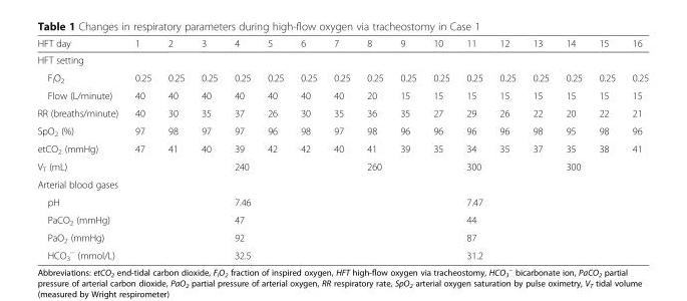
<table><thead><tr><td>HFT day</td><td>1</td><td>2</td><td>3</td><td>4</td><td>5</td><td>6</td><td>7</td><td>8</td><td>9</td><td>10</td><td>11</td><td>12</td><td>13</td><td>14</td><td>15</td><td>16</td></tr></thead><tbody><tr><td colspan="17">HFT setting</td></tr><tr><td>F<sub>I</sub>O<sub>2</sub></td><td>0.25</td><td>0.25</td><td>0.25</td><td>0.25</td><td>0.25</td><td>0.25</td><td>0.25</td><td>0.25</td><td>0.25</td><td>0.25</td><td>0.25</td><td>0.25</td><td>0.25</td><td>0.25</td><td>0.25</td><td>0.25</td></tr><tr><td>Flow (L/minute)</td><td>40</td><td>40</td><td>40</td><td>40</td><td>40</td><td>40</td><td>40</td><td>20</td><td>15</td><td>15</td><td>15</td><td>15</td><td>15</td><td>15</td><td>15</td><td>15</td></tr><tr><td>RR (breaths/minute)</td><td>40</td><td>30</td><td>35</td><td>37</td><td>26</td><td>30</td><td>35</td><td>36</td><td>35</td><td>27</td><td>29</td><td>26</td><td>22</td><td>20</td><td>22</td><td>21</td></tr><tr><td>SpO<sub>2</sub> (%)</td><td>97</td><td>98</td><td>97</td><td>97</td><td>96</td><td>98</td><td>97</td><td>98</td><td>96</td><td>96</td><td>96</td><td>96</td><td>98</td><td>95</td><td>98</td><td>96</td></tr><tr><td>etCO<sub>2</sub> (mmHg)</td><td>47</td><td>41</td><td>40</td><td>39</td><td>42</td><td>42</td><td>40</td><td>41</td><td>39</td><td>35</td><td>34</td><td>35</td><td>37</td><td>35</td><td>38</td><td>41</td></tr><tr><td>V<sub>T</sub> (mL)</td><td></td><td></td><td></td><td>240</td><td></td><td></td><td></td><td>260</td><td></td><td></td><td>300</td><td></td><td></td><td>300</td><td></td><td></td></tr><tr><td colspan="17">Arterial blood gases</td></tr><tr><td>pH</td><td></td><td></td><td></td><td>7.46</td><td></td><td></td><td></td><td></td><td></td><td></td><td>7.47</td><td></td><td></td><td></td><td></td><td></td></tr><tr><td>PaCO<sub>2</sub> (mmHg)</td><td></td><td></td><td></td><td>47</td><td></td><td></td><td></td><td></td><td></td><td></td><td>44</td><td></td><td></td><td></td><td></td><td></td></tr><tr><td>PaO<sub>2</sub> (mmHg)</td><td></td><td></td><td></td><td>92</td><td></td><td></td><td></td><td></td><td></td><td></td><td>87</td><td></td><td></td><td></td><td></td><td></td></tr><tr><td>HCO<sub>3</sub> <sup>−</sup> (mmol/L)</td><td></td><td></td><td></td><td>32.5</td><td></td><td></td><td></td><td></td><td></td><td></td><td>31.2</td><td></td><td></td><td></td><td></td><td></td></tr></tbody></table>